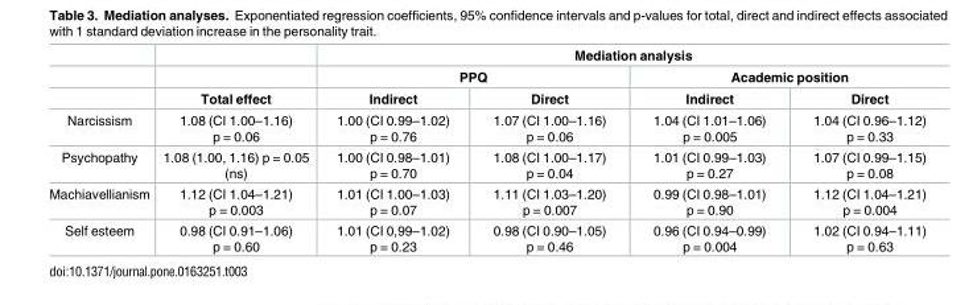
<table><thead><tr><td rowspan="3"></td><td rowspan="3">Total effect</td><td colspan="4">Mediation analysis</td></tr><tr><td colspan="2">PPQ</td><td colspan="2">Academic position</td></tr><tr><td>Indirect</td><td>Direct</td><td>Indirect</td><td>Direct</td></tr></thead><tbody><tr><td>Narcissism</td><td>1.08 (CI 1.00–1.16) p = 0.06</td><td>1.00 (CI 0.99–1.02) p = 0.76</td><td>1.07 (CI 1.00–1.16) p = 0.06</td><td>1.04 (CI 1.01–1.06) p = 0.005</td><td>1.04 (CI 0.96–1.12) p = 0.33</td></tr><tr><td>Psychopathy</td><td>1.08 (1.00, 1.16) p = 0.05 (ns)</td><td>1.00 (CI 0.98–1.01) p = 0.70</td><td>1.08 (CI 1.00–1.17) p = 0.04</td><td>1.01 (CI 0.99–1.03) p = 0.27</td><td>1.07 (CI 0.99–1.15) p = 0.08</td></tr><tr><td>Machiavellianism</td><td>1.12 (CI 1.04–1.21) p = 0.003</td><td>1.01 (CI 1.00–1.03) p = 0.07</td><td>1.11 (CI 1.03–1.20) p = 0.007</td><td>0.99 (CI 0.98–1.01) p = 0.90</td><td>1.12 (CI 1.04–1.21) p = 0.004</td></tr><tr><td>Self esteem</td><td>0.98 (CI 0.91–1.06) p = 0.60</td><td>1.01 (CI 0,99–1.02) p = 0.23</td><td>0.98 (CI 0.90–1.05) p = 0.46</td><td>0.96 (CI 0.94–0.99) p = 0.004</td><td>1.02 (CI 0.94–1.11) p = 0.63</td></tr></tbody></table>